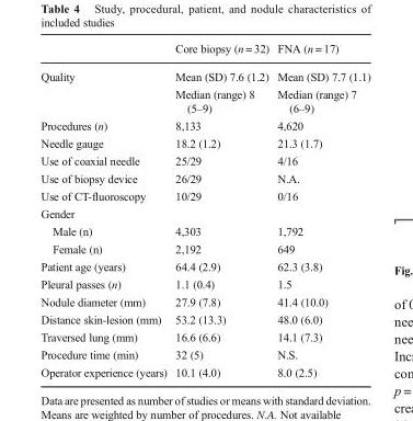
<table><thead><tr><td></td><td>Core biopsy (n = 32)</td><td>FNA (n = 17)</td></tr></thead><tbody><tr><td rowspan="2">Quality</td><td>Mean (SD) 7.6 (1.2)</td><td>Mean (SD) 7.7 (1.1)</td></tr><tr><td>Median (range) 8 (5–9)</td><td>Median (range) 7 (6–9)</td></tr><tr><td>Procedures (n)</td><td>8,133</td><td>4,620</td></tr><tr><td>Needle gauge</td><td>18.2 (1.2)</td><td>21.3 (1.7)</td></tr><tr><td>Use of coaxial needle</td><td>25/29</td><td>4/16</td></tr><tr><td>Use of biopsy device</td><td>26/29</td><td>N.A.</td></tr><tr><td>Use of CT-fluoroscopy</td><td>10/29</td><td>0/16</td></tr><tr><td colspan="3">Gender</td></tr><tr><td>Male (n)</td><td>4,303</td><td>1,792</td></tr><tr><td>Female (n)</td><td>2,192</td><td>649</td></tr><tr><td>Patient age (years)</td><td>64.4 (2.9)</td><td>62.3 (3.8)</td></tr><tr><td>Pleural passes (n)</td><td>1.1 (0.4)</td><td>1.5</td></tr><tr><td>Nodule diameter (mm)</td><td>27.9 (7.8)</td><td>41.4 (10.0)</td></tr><tr><td>Distance skin-lesion (mm)</td><td>53.2 (13.3)</td><td>48.0 (6.0)</td></tr><tr><td>Traversed lung (mm)</td><td>16.6 (6.6)</td><td>14.1 (7.3)</td></tr><tr><td>Procedure time (min)</td><td>32 (5)</td><td>N.S.</td></tr><tr><td>Operator experience (years)</td><td>10.1 (4.0)</td><td>8.0 (2.5)</td></tr></tbody></table>